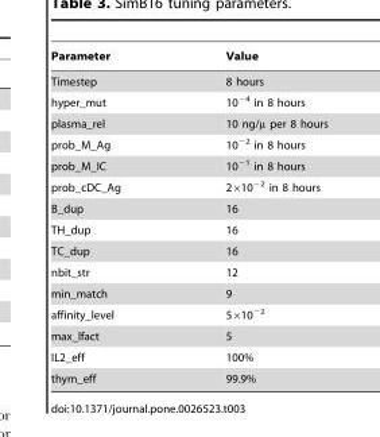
<table><thead><tr><td>Parameter</td><td>Value</td></tr></thead><tbody><tr><td>Timestep</td><td>8 hours</td></tr><tr><td>hyper_mut</td><td>10<sup>−4</sup> in 8 hours</td></tr><tr><td>plasma_rel</td><td>10 ng/µ per 8 hours</td></tr><tr><td>prob_M_Ag</td><td>10<sup>−2</sup> in 8 hours</td></tr><tr><td>prob_M_IC</td><td>10<sup>−1</sup> in 8 hours</td></tr><tr><td>prob_cDC_Ag</td><td>2×10<sup>−2</sup> in 8 hours</td></tr><tr><td>B_dup</td><td>16</td></tr><tr><td>TH_dup</td><td>16</td></tr><tr><td>TC_dup</td><td>16</td></tr><tr><td>nbit_str</td><td>12</td></tr><tr><td>min_match</td><td>9</td></tr><tr><td>affinity_level</td><td>5×10<sup>−2</sup></td></tr><tr><td>max_lfact</td><td>5</td></tr><tr><td>IL2_eff</td><td>100%</td></tr><tr><td>thym_eff</td><td>99.9%</td></tr></tbody></table>